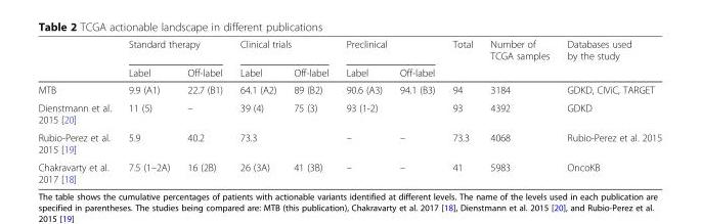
<table><thead><tr><td rowspan="2"></td><td colspan="2">Standard therapy</td><td colspan="2">Clinical trials</td><td colspan="2">Preclinical</td><td rowspan="2">Total</td><td rowspan="2">Number of TCGA samples</td><td rowspan="2">Databases used by the study</td></tr><tr><td>Label</td><td>Off-label</td><td>Label</td><td>Off-label</td><td>Label</td><td>Off-label</td></tr></thead><tbody><tr><td>MTB</td><td>9.9 (A1)</td><td>22.7 (B1)</td><td>64.1 (A2)</td><td>89 (B2)</td><td>90.6 (A3)</td><td>94.1 (B3)</td><td>94</td><td>3184</td><td>GDKD, CIViC, TARGET</td></tr><tr><td>Dienstmann et al. 2015 [20]</td><td>11 (5)</td><td>–</td><td>39 (4)</td><td>75 (3)</td><td colspan="2">93 (1-2)</td><td>93</td><td>4392</td><td>GDKD</td></tr><tr><td>Rubio-Perez et al. 2015 [19]</td><td>5.9</td><td>40.2</td><td colspan="2">73.3</td><td>–</td><td>–</td><td>73.3</td><td>4068</td><td>Rubio-Perez et al. 2015</td></tr><tr><td>Chakravarty et al. 2017 [18]</td><td>7.5 (1–2A)</td><td>16 (2B)</td><td>26 (3A)</td><td>41 (3B)</td><td>–</td><td>–</td><td>41</td><td>5983</td><td>OncoKB</td></tr></tbody></table>